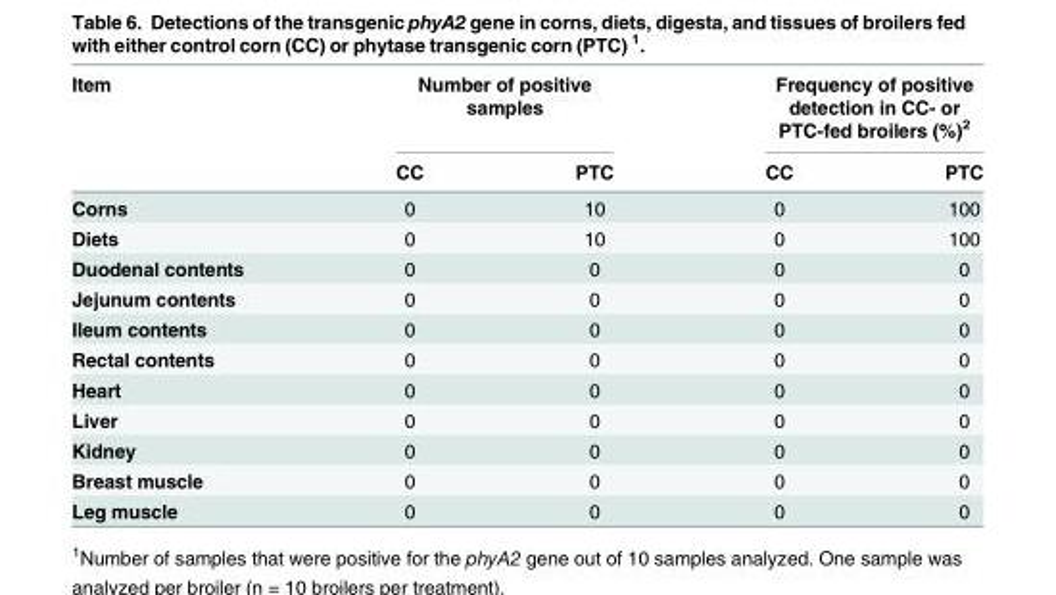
<table><thead><tr><td rowspan="2">Item</td><td colspan="2">Number of positive samples</td><td colspan="2">Frequency of positive detection in CC- or PTC-fed broilers (%)<sup>2</sup></td></tr><tr><td>CC</td><td>PTC</td><td>CC</td><td>PTC</td></tr></thead><tbody><tr><td>Corns</td><td>0</td><td>10</td><td>0</td><td>100</td></tr><tr><td>Diets</td><td>0</td><td>10</td><td>0</td><td>100</td></tr><tr><td>Duodenal contents</td><td>0</td><td>0</td><td>0</td><td>0</td></tr><tr><td>Jejunum contents</td><td>0</td><td>0</td><td>0</td><td>0</td></tr><tr><td>Ileum contents</td><td>0</td><td>0</td><td>0</td><td>0</td></tr><tr><td>Rectal contents</td><td>0</td><td>0</td><td>0</td><td>0</td></tr><tr><td>Heart</td><td>0</td><td>0</td><td>0</td><td>0</td></tr><tr><td>Liver</td><td>0</td><td>0</td><td>0</td><td>0</td></tr><tr><td>Kidney</td><td>0</td><td>0</td><td>0</td><td>0</td></tr><tr><td>Breast muscle</td><td>0</td><td>0</td><td>0</td><td>0</td></tr><tr><td>Leg muscle</td><td>0</td><td>0</td><td>0</td><td>0</td></tr></tbody></table>